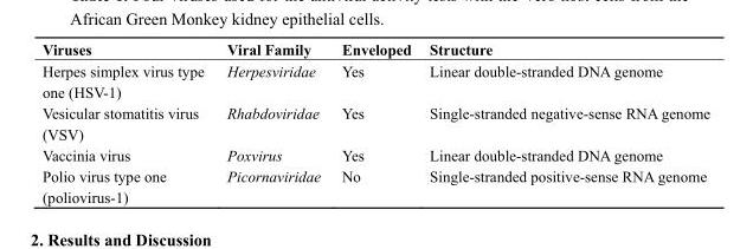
<table><thead><tr><td>Viruses</td><td>Viral Family</td><td>Enveloped</td><td>Structure</td></tr></thead><tbody><tr><td>Herpes simplex virus type one (HSV-1)</td><td>Herpesviridae</td><td>Yes</td><td>Linear double-stranded DNA genome</td></tr><tr><td>Vesicular stomatitis virus (VSV)</td><td>Rhabdoviridae</td><td>Yes</td><td>Single-stranded negative-sense RNA genome</td></tr><tr><td>Vaccinia virus</td><td>Poxvirus</td><td>Yes</td><td>Linear double-stranded DNA genome</td></tr><tr><td>Polio virus type one (poliovirus-1)</td><td>Picornaviridae</td><td>No</td><td>Single-stranded positive-sense RNA genome</td></tr></tbody></table>